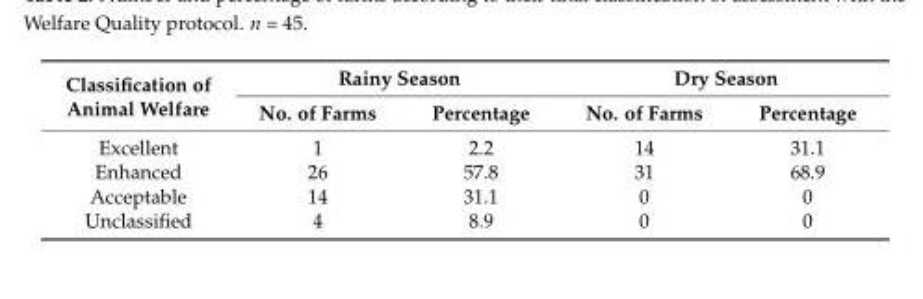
<table><thead><tr><td rowspan="2">Classification of Animal Welfare</td><td colspan="2">Rainy Season</td><td colspan="2">Dry Season</td></tr><tr><td>No. of Farms</td><td>Percentage</td><td>No. of Farms</td><td>Percentage</td></tr></thead><tbody><tr><td>Excellent</td><td>1</td><td>2.2</td><td>14</td><td>31.1</td></tr><tr><td>Enhanced</td><td>26</td><td>57.8</td><td>31</td><td>68.9</td></tr><tr><td>Acceptable</td><td>14</td><td>31.1</td><td>0</td><td>0</td></tr><tr><td>Unclassified</td><td>4</td><td>8.9</td><td>0</td><td>0</td></tr></tbody></table>